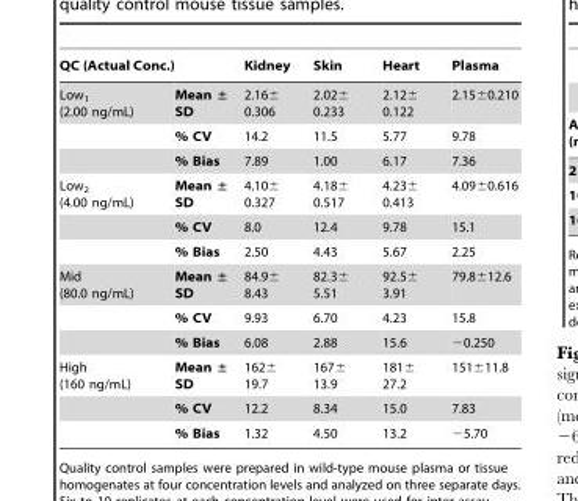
<table><thead><tr><td>QC (Actual Conc.)</td><td></td><td>Kidney</td><td>Skin</td><td>Heart</td><td>Plasma</td></tr></thead><tbody><tr><td rowspan="3">Low<sub>1</sub> (2.00 ng/mL)</td><td>Mean ± SD</td><td>2.16± 0.306</td><td>2.02± 0.233</td><td>2.12± 0.122</td><td>2.15±0.210</td></tr><tr><td>% CV</td><td>14.2</td><td>11.5</td><td>5.77</td><td>9.78</td></tr><tr><td>% Bias</td><td>7.89</td><td>1.00</td><td>6.17</td><td>7.36</td></tr><tr><td rowspan="3">Low<sub>2</sub> (4.00 ng/mL)</td><td>Mean ± SD</td><td>4.10± 0.327</td><td>4.18± 0.517</td><td>4.23± 0.413</td><td>4.09±0.616</td></tr><tr><td>% CV</td><td>8.0</td><td>12.4</td><td>9.78</td><td>15.1</td></tr><tr><td>% Bias</td><td>2.50</td><td>4.43</td><td>5.67</td><td>2.25</td></tr><tr><td rowspan="3">Mid (80.0 ng/mL)</td><td>Mean ± SD</td><td>84.9± 8.43</td><td>82.3± 5.51</td><td>92.5± 3.91</td><td>79.8±12.6</td></tr><tr><td>% CV</td><td>9.93</td><td>6.70</td><td>4.23</td><td>15.8</td></tr><tr><td>% Bias</td><td>6.08</td><td>2.88</td><td>15.6</td><td>−0.250</td></tr><tr><td rowspan="3">High (160 ng/mL)</td><td>Mean ± SD</td><td>162± 19.7</td><td>167± 13.9</td><td>181± 27.2</td><td>151±11.8</td></tr><tr><td>% CV</td><td>12.2</td><td>8.34</td><td>15.0</td><td>7.83</td></tr><tr><td>% Bias</td><td>1.32</td><td>4.50</td><td>13.2</td><td>−5.70</td></tr></tbody></table>